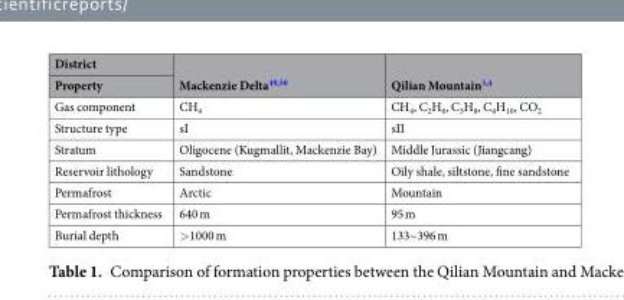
<table><thead><tr><td rowspan="2">District Property</td><td rowspan="2">Mackenzie Delta<sup>49,50</sup></td><td rowspan="2">Qilian Mountain<sup>3,4</sup></td></tr><tr></tr></thead><tbody><tr><td>Gas component</td><td>CH<sub>4</sub></td><td>CH<sub>4</sub>, C<sub>2</sub>H<sub>6</sub>, C<sub>3</sub>H<sub>8</sub>, C<sub>4</sub>H<sub>10</sub>, CO<sub>2</sub></td></tr><tr><td>Structure type</td><td>sI</td><td>sII</td></tr><tr><td>Stratum</td><td>Oligocene (Kugmallit, Mackenzie Bay)</td><td>Middle Jurassic (Jiangcang)</td></tr><tr><td>Reservoir lithology</td><td>Sandstone</td><td>Oily shale, siltstone, fine sandstone</td></tr><tr><td>Permafrost</td><td>Arctic</td><td>Mountain</td></tr><tr><td>Permafrost thickness</td><td>640 m</td><td>95 m</td></tr><tr><td>Burial depth</td><td>&gt;1000 m</td><td>133~396 m</td></tr></tbody></table>